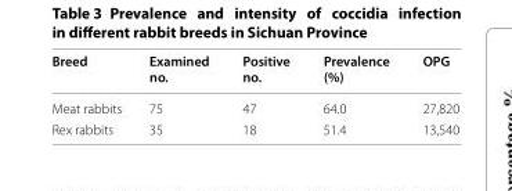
<table><thead><tr><td>Breed</td><td>Examined no.</td><td>Positive no.</td><td>Prevalence (%)</td><td>OPG</td></tr></thead><tbody><tr><td>Meat rabbits</td><td>75</td><td>47</td><td>64.0</td><td>27,820</td></tr><tr><td>Rex rabbits</td><td>35</td><td>18</td><td>51.4</td><td>13,540</td></tr></tbody></table>